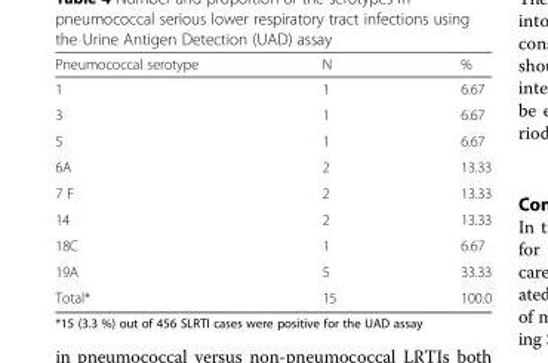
<table><thead><tr><td>Pneumococcal serotype</td><td>N</td><td>%</td></tr></thead><tbody><tr><td>1</td><td>1</td><td>6.67</td></tr><tr><td>3</td><td>1</td><td>6.67</td></tr><tr><td>5</td><td>1</td><td>6.67</td></tr><tr><td>6A</td><td>2</td><td>13.33</td></tr><tr><td>7 F</td><td>2</td><td>13.33</td></tr><tr><td>14</td><td>2</td><td>13.33</td></tr><tr><td>18C</td><td>1</td><td>6.67</td></tr><tr><td>19A</td><td>5</td><td>33.33</td></tr><tr><td>Total*</td><td>15</td><td>100.0</td></tr></tbody></table>